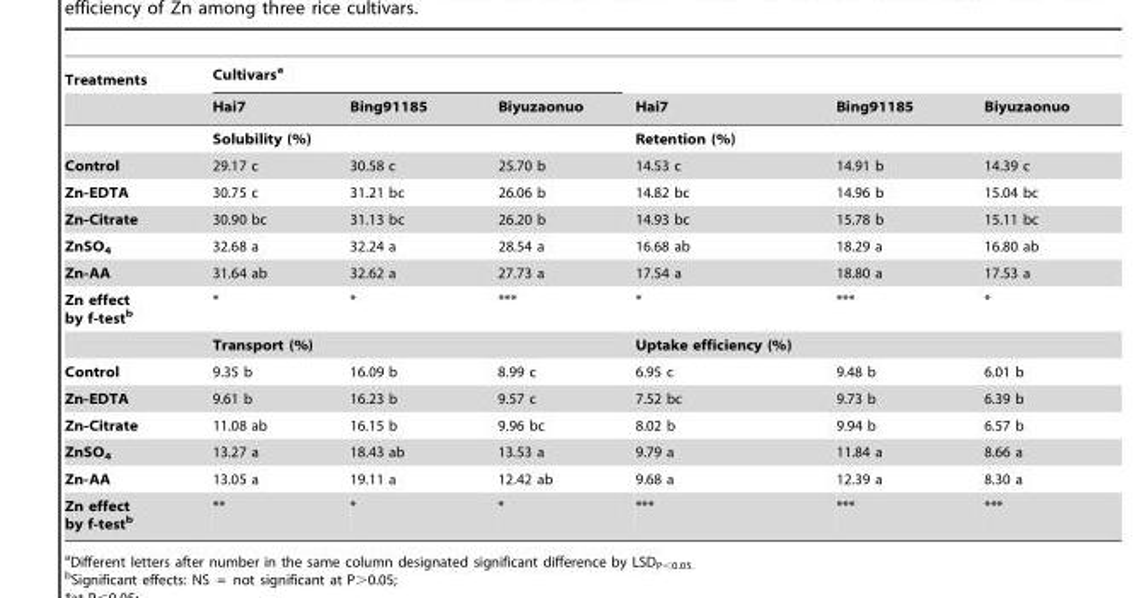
<table><thead><tr><td rowspan="2">Treatments</td><td colspan="3">Cultivars<sup>a</sup></td><td rowspan="2">Hai7</td><td rowspan="2">Bing91185</td><td rowspan="2">Biyuzaonuo</td></tr><tr><td>Hai7</td><td>Bing91185</td><td>Biyuzaonuo</td></tr></thead><tbody><tr><td></td><td colspan="3">Solubility (%)</td><td colspan="3">Retention (%)</td></tr><tr><td>Control</td><td>29.17 c</td><td>30.58 c</td><td>25.70 b</td><td>14.53 c</td><td>14.91 b</td><td>14.39 c</td></tr><tr><td>Zn-EDTA</td><td>30.75 c</td><td>31.21 bc</td><td>26.06 b</td><td>14.82 bc</td><td>14.96 b</td><td>15.04 bc</td></tr><tr><td>Zn-Citrate</td><td>30.90 bc</td><td>31.13 bc</td><td>26.20 b</td><td>14.93 bc</td><td>15.78 b</td><td>15.11 bc</td></tr><tr><td>ZnSO<sub>4</sub></td><td>32.68 a</td><td>32.24 a</td><td>28.54 a</td><td>16.68 ab</td><td>18.29 a</td><td>16.80 ab</td></tr><tr><td>Zn-AA</td><td>31.64 ab</td><td>32.62 a</td><td>27.73 a</td><td>17.54 a</td><td>18.80 a</td><td>17.53 a</td></tr><tr><td rowspan="2">Zn effect by f-testb</td><td>*</td><td>*</td><td>***</td><td>*</td><td>***</td><td>*</td></tr><tr><td colspan="3">Transport (%)</td><td colspan="3">Uptake efficiency (%)</td></tr><tr><td>Control</td><td>9.35 b</td><td>16.09 b</td><td>8.99 c</td><td>6.95 c</td><td>9.48 b</td><td>6.01 b</td></tr><tr><td>Zn-EDTA</td><td>9.61 b</td><td>16.23 b</td><td>9.57 c</td><td>7.52 bc</td><td>9.73 b</td><td>6.39 b</td></tr><tr><td>Zn-Citrate</td><td>11.08 ab</td><td>16.15 b</td><td>9.96 bc</td><td>8.02 b</td><td>9.94 b</td><td>6.57 b</td></tr><tr><td>ZnSO<sub>4</sub></td><td>13.27 a</td><td>18.43 ab</td><td>13.53 a</td><td>9.79 a</td><td>11.84 a</td><td>8.66 a</td></tr><tr><td>Zn-AA</td><td>13.05 a</td><td>19.11 a</td><td>12.42 ab</td><td>9.68 a</td><td>12.39 a</td><td>8.30 a</td></tr><tr><td>Zn effect by f-testb</td><td>**</td><td>*</td><td>*</td><td>***</td><td>***</td><td>***</td></tr></tbody></table>